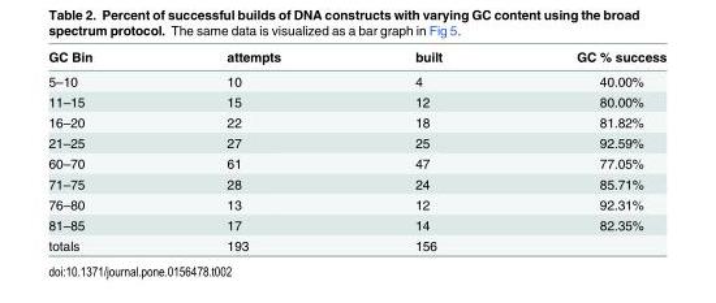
<table><thead><tr><td>GC Bin</td><td>attempts</td><td>built</td><td>GC % success</td></tr></thead><tbody><tr><td>5–10</td><td>10</td><td>4</td><td>40.00%</td></tr><tr><td>11–15</td><td>15</td><td>12</td><td>80.00%</td></tr><tr><td>16–20</td><td>22</td><td>18</td><td>81.82%</td></tr><tr><td>21–25</td><td>27</td><td>25</td><td>92.59%</td></tr><tr><td>60–70</td><td>61</td><td>47</td><td>77.05%</td></tr><tr><td>71–75</td><td>28</td><td>24</td><td>85.71%</td></tr><tr><td>76–80</td><td>13</td><td>12</td><td>92.31%</td></tr><tr><td>81–85</td><td>17</td><td>14</td><td>82.35%</td></tr><tr><td>totals</td><td>193</td><td>156</td><td></td></tr></tbody></table>